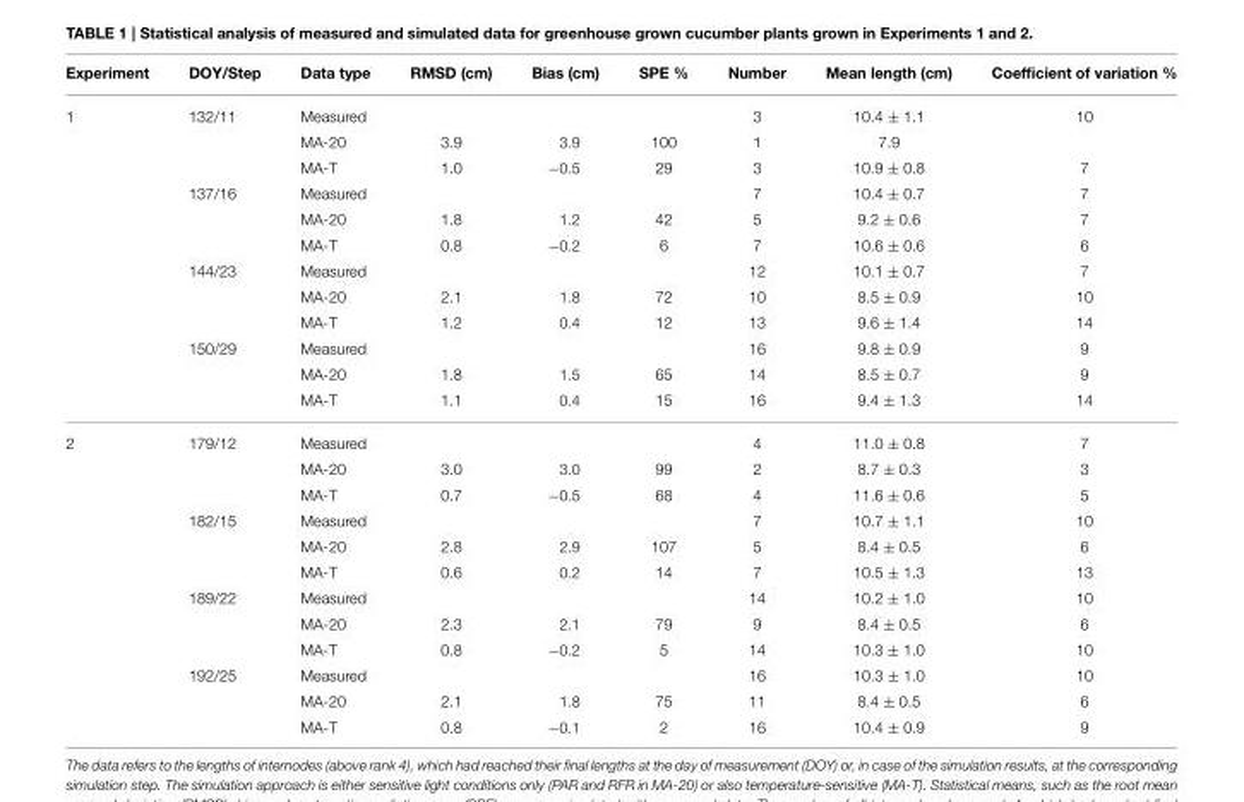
<table><thead><tr><td>Experiment</td><td>DOY/Step</td><td>Data type</td><td>RMSD (cm)</td><td>Bias (cm)</td><td>SPE %</td><td>Number</td><td>Mean length (cm)</td><td>Coefficient of variation %</td></tr></thead><tbody><tr><td rowspan="12">1</td><td>132/11</td><td>Measured</td><td></td><td></td><td></td><td>3</td><td>10.4 ± 1.1</td><td>10</td></tr><tr><td></td><td>MA-20</td><td>3.9</td><td>3.9</td><td>100</td><td>1</td><td>7.9</td><td></td></tr><tr><td></td><td>MA-T</td><td>1.0</td><td>−0.5</td><td>29</td><td>3</td><td>10.9 ± 0.8</td><td>7</td></tr><tr><td>137/16</td><td>Measured</td><td></td><td></td><td></td><td>7</td><td>10.4 ± 0.7</td><td>7</td></tr><tr><td></td><td>MA-20</td><td>1.8</td><td>1.2</td><td>42</td><td>5</td><td>9.2 ± 0.6</td><td>7</td></tr><tr><td></td><td>MA-T</td><td>0.8</td><td>−0.2</td><td>6</td><td>7</td><td>10.6 ± 0.6</td><td>6</td></tr><tr><td>144/23</td><td>Measured</td><td></td><td></td><td></td><td>12</td><td>10.1 ± 0.7</td><td>7</td></tr><tr><td></td><td>MA-20</td><td>2.1</td><td>1.8</td><td>72</td><td>10</td><td>8.5 ± 0.9</td><td>10</td></tr><tr><td></td><td>MA-T</td><td>1.2</td><td>0.4</td><td>12</td><td>13</td><td>9.6 ± 1.4</td><td>14</td></tr><tr><td>150/29</td><td>Measured</td><td></td><td></td><td></td><td>16</td><td>9.8 ± 0.9</td><td>9</td></tr><tr><td></td><td>MA-20</td><td>1.8</td><td>1.5</td><td>65</td><td>14</td><td>8.5 ± 0.7</td><td>9</td></tr><tr><td></td><td>MA-T</td><td>1.1</td><td>0.4</td><td>15</td><td>16</td><td>9.4 ± 1.3</td><td>14</td></tr><tr><td rowspan="12">2</td><td>179/12</td><td>Measured</td><td></td><td></td><td></td><td>4</td><td>11.0 ± 0.8</td><td>7</td></tr><tr><td></td><td>MA-20</td><td>3.0</td><td>3.0</td><td>99</td><td>2</td><td>8.7 ± 0.3</td><td>3</td></tr><tr><td></td><td>MA-T</td><td>0.7</td><td>−0.5</td><td>68</td><td>4</td><td>11.6 ± 0.6</td><td>5</td></tr><tr><td>182/15</td><td>Measured</td><td></td><td></td><td></td><td>7</td><td>10.7 ± 1.1</td><td>10</td></tr><tr><td></td><td>MA-20</td><td>2.8</td><td>2.9</td><td>107</td><td>5</td><td>8.4 ± 0.5</td><td>6</td></tr><tr><td></td><td>MA-T</td><td>0.6</td><td>0.2</td><td>14</td><td>7</td><td>10.5 ± 1.3</td><td>13</td></tr><tr><td>189/22</td><td>Measured</td><td></td><td></td><td></td><td>14</td><td>10.2 ± 1.0</td><td>10</td></tr><tr><td></td><td>MA-20</td><td>2.3</td><td>2.1</td><td>79</td><td>9</td><td>8.4 ± 0.5</td><td>6</td></tr><tr><td></td><td>MA-T</td><td>0.8</td><td>−0.2</td><td>5</td><td>14</td><td>10.3 ± 1.0</td><td>10</td></tr><tr><td>192/25</td><td>Measured</td><td></td><td></td><td></td><td>16</td><td>10.3 ± 1.0</td><td>10</td></tr><tr><td></td><td>MA-20</td><td>2.1</td><td>1.8</td><td>75</td><td>11</td><td>8.4 ± 0.5</td><td>6</td></tr><tr><td></td><td>MA-T</td><td>0.8</td><td>−0.1</td><td>2</td><td>16</td><td>10.4 ± 0.9</td><td>9</td></tr></tbody></table>